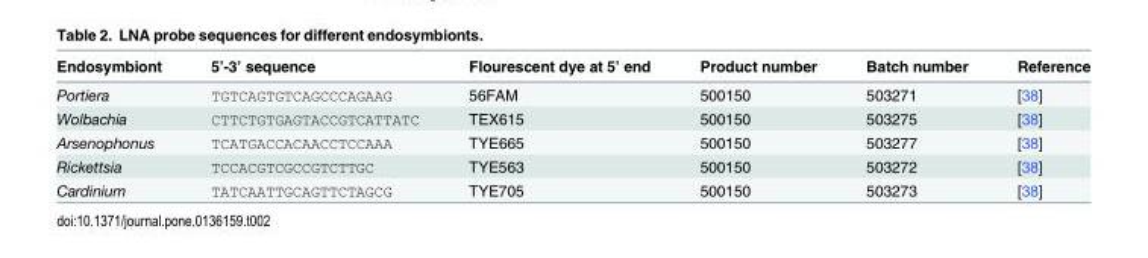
<table><thead><tr><td>Endosymbiont</td><td>5’-3’ sequence</td><td>Flourescent dye at 5’ end</td><td>Product number</td><td>Batch number</td><td>Reference</td></tr></thead><tbody><tr><td>Portiera</td><td>TGTCAGTGTCAGCCCAGAAG</td><td>56FAM</td><td>500150</td><td>503271</td><td>[38]</td></tr><tr><td>Wolbachia</td><td>CTTCTGTGAGTACCGTCATTATC</td><td>TEX615</td><td>500150</td><td>503275</td><td>[38]</td></tr><tr><td>Arsenophonus</td><td>TCATGACCACAACCTCCAAA</td><td>TYE665</td><td>500150</td><td>503277</td><td>[38]</td></tr><tr><td>Rickettsia</td><td>TCCACGTCGCCGTCTTGC</td><td>TYE563</td><td>500150</td><td>503272</td><td>[38]</td></tr><tr><td>Cardinium</td><td>TATCAATTGCAGTTCTAGCG</td><td>TYE705</td><td>500150</td><td>503273</td><td>[38]</td></tr></tbody></table>